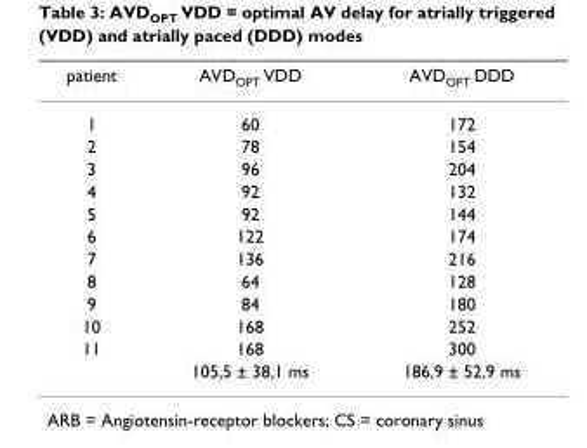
<table><thead><tr><td>patient</td><td>AVD<sub>OPT</sub> VDD</td><td>AVD<sub>OPT</sub> DDD</td></tr></thead><tbody><tr><td>1</td><td>60</td><td>172</td></tr><tr><td>2</td><td>78</td><td>154</td></tr><tr><td>3</td><td>96</td><td>204</td></tr><tr><td>4</td><td>92</td><td>132</td></tr><tr><td>5</td><td>92</td><td>144</td></tr><tr><td>6</td><td>122</td><td>174</td></tr><tr><td>7</td><td>136</td><td>216</td></tr><tr><td>8</td><td>64</td><td>128</td></tr><tr><td>9</td><td>84</td><td>180</td></tr><tr><td>10</td><td>168</td><td>252</td></tr><tr><td rowspan="2">11</td><td>168</td><td>300</td></tr><tr><td>105,5 ± 38,1 ms</td><td>186,9 ± 52,9 ms</td></tr></tbody></table>